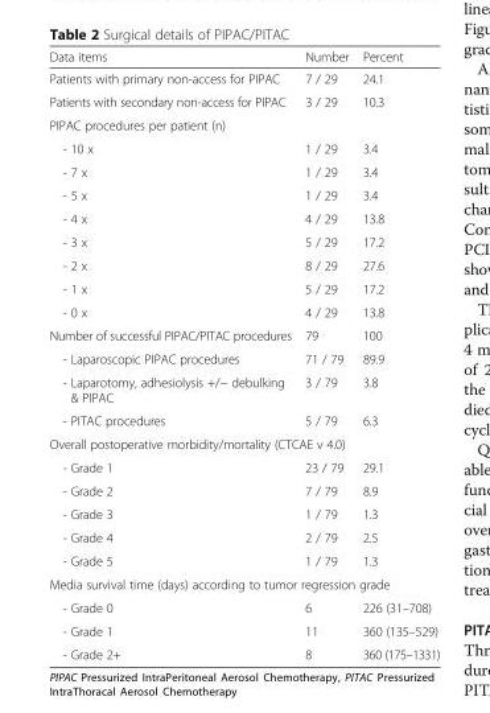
<table><thead><tr><td>Data items</td><td>Number</td><td>Percent</td></tr></thead><tbody><tr><td>Patients with primary non-access for PIPAC</td><td>7 / 29</td><td>24.1</td></tr><tr><td>Patients with secondary non-access for PIPAC</td><td>3 / 29</td><td>10.3</td></tr><tr><td colspan="3">PIPAC procedures per patient (n)</td></tr><tr><td>- 10 x</td><td>1 / 29</td><td>3.4</td></tr><tr><td>- 7 x</td><td>1 / 29</td><td>3.4</td></tr><tr><td>- 5 x</td><td>1 / 29</td><td>3.4</td></tr><tr><td>- 4 x</td><td>4 / 29</td><td>13.8</td></tr><tr><td>- 3 x</td><td>5 / 29</td><td>17.2</td></tr><tr><td>- 2 x</td><td>8 / 29</td><td>27.6</td></tr><tr><td>- 1 x</td><td>5 / 29</td><td>17.2</td></tr><tr><td>- 0 x</td><td>4 / 29</td><td>13.8</td></tr><tr><td>Number of successful PIPAC/PITAC procedures</td><td>79</td><td>100</td></tr><tr><td>- Laparoscopic PIPAC procedures</td><td>71 / 79</td><td>89.9</td></tr><tr><td>- Laparotomy, adhesiolysis +/− debulking &amp; PIPAC</td><td>3 / 79</td><td>3.8</td></tr><tr><td>- PITAC procedures</td><td>5 / 79</td><td>6.3</td></tr><tr><td colspan="3">Overall postoperative morbidity/mortality (CTCAE v 4.0)</td></tr><tr><td>- Grade 1</td><td>23 / 79</td><td>29.1</td></tr><tr><td>- Grade 2</td><td>7 / 79</td><td>8.9</td></tr><tr><td>- Grade 3</td><td>1 / 79</td><td>1.3</td></tr><tr><td>- Grade 4</td><td>2 / 79</td><td>2.5</td></tr><tr><td>- Grade 5</td><td>1 / 79</td><td>1.3</td></tr><tr><td colspan="3">Media survival time (days) according to tumor regression grade</td></tr><tr><td>- Grade 0</td><td>6</td><td>226 (31–708)</td></tr><tr><td>- Grade 1</td><td>11</td><td>360 (135–529)</td></tr><tr><td>- Grade 2+</td><td>8</td><td>360 (175–1331)</td></tr></tbody></table>